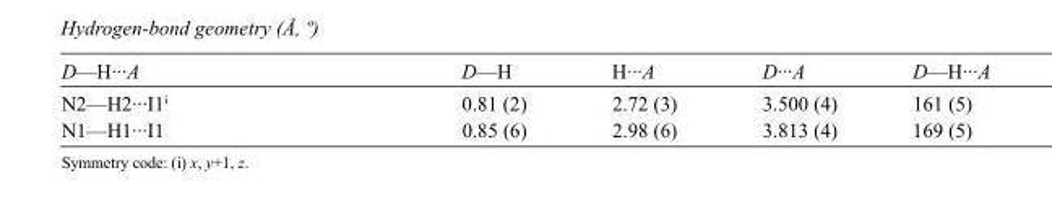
<table><tbody><tr><td>D—H···A</td><td>D—H</td><td>H···A</td><td>D···A</td><td>D—H···A</td></tr><tr><td>N2—H2···I1<sup>i</sup></td><td>0.81 (2)</td><td>2.72 (3)</td><td>3.500 (4)</td><td>161 (5)</td></tr><tr><td>N1—H1···I1</td><td>0.85 (6)</td><td>2.98 (6)</td><td>3.813 (4)</td><td>169 (5)</td></tr></tbody></table>